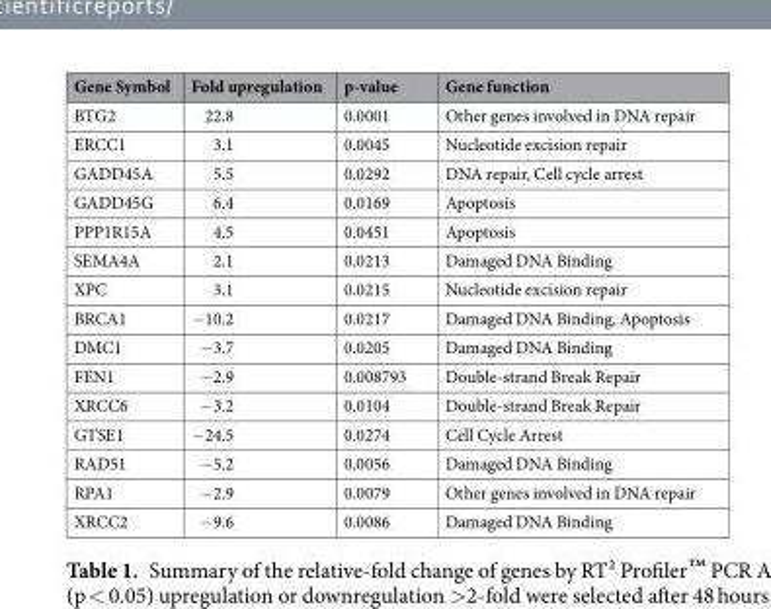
<table><thead><tr><td>Gene Symbol</td><td>Fold upregulation</td><td>p-value</td><td>Gene function</td></tr></thead><tbody><tr><td>BTG2</td><td>22.8</td><td>0.0001</td><td>Other genes involved in DNA repair</td></tr><tr><td>ERCC1</td><td>3.1</td><td>0.0045</td><td>Nucleotide excision repair</td></tr><tr><td>GADD45A</td><td>5.5</td><td>0.0292</td><td>DNA repair, Cell cycle arrest</td></tr><tr><td>GADD45G</td><td>6.4</td><td>0.0169</td><td>Apoptosis</td></tr><tr><td>PPP1R15A</td><td>4.5</td><td>0.0451</td><td>Apoptosis</td></tr><tr><td>SEMA4A</td><td>2.1</td><td>0.0213</td><td>Damaged DNA Binding</td></tr><tr><td>XPC</td><td>3.1</td><td>0.0215</td><td>Nucleotide excision repair</td></tr><tr><td>BRCA1</td><td>−10.2</td><td>0.0217</td><td>Damaged DNA Binding, Apoptosis</td></tr><tr><td>DMC1</td><td>−3.7</td><td>0.0205</td><td>Damaged DNA Binding</td></tr><tr><td>FEN1</td><td>−2.9</td><td>0.008793</td><td>Double-strand Break Repair</td></tr><tr><td>XRCC6</td><td>−3.2</td><td>0.0104</td><td>Double-strand Break Repair</td></tr><tr><td>GTSE1</td><td>−24.5</td><td>0.0274</td><td>Cell Cycle Arrest</td></tr><tr><td>RAD51</td><td>−5.2</td><td>0.0056</td><td>Damaged DNA Binding</td></tr><tr><td>RPA1</td><td>−2.9</td><td>0.0079</td><td>Other genes involved in DNA repair</td></tr><tr><td>XRCC2</td><td>−9.6</td><td>0.0086</td><td>Damaged DNA Binding</td></tr></tbody></table>